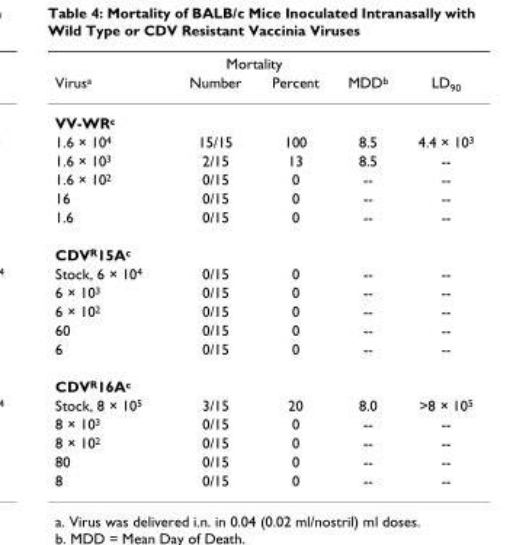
<table><thead><tr><td rowspan="2">Virus<sup>a</sup></td><td colspan="2">Mortality</td><td rowspan="2">MDD<sup>b</sup></td><td rowspan="2">LD<sub>90</sub></td></tr><tr><td>Number</td><td>Percent</td></tr></thead><tbody><tr><td colspan="5">VV-WR<sup>c</sup></td></tr><tr><td>1.6 × 10<sup>4</sup></td><td>15/15</td><td>100</td><td>8.5</td><td>4.4 × 10<sup>3</sup></td></tr><tr><td>1.6 × 10<sup>3</sup></td><td>2/15</td><td>13</td><td>8.5</td><td>--</td></tr><tr><td>1.6 × 10<sup>2</sup></td><td>0/15</td><td>0</td><td>--</td><td>--</td></tr><tr><td>16</td><td>0/15</td><td>0</td><td>--</td><td>--</td></tr><tr><td>1.6</td><td>0/15</td><td>0</td><td>--</td><td>--</td></tr><tr><td colspan="5">CDV<sup>R</sup>15A<sup>c</sup></td></tr><tr><td>Stock, 6 × 10<sup>4</sup></td><td>0/15</td><td>0</td><td>--</td><td>--</td></tr><tr><td>6 × 10<sup>3</sup></td><td>0/15</td><td>0</td><td>--</td><td>--</td></tr><tr><td>6 × 10<sup>2</sup></td><td>0/15</td><td>0</td><td>--</td><td>--</td></tr><tr><td>60</td><td>0/15</td><td>0</td><td>--</td><td>--</td></tr><tr><td>6</td><td>0/15</td><td>0</td><td>--</td><td>--</td></tr><tr><td colspan="5">CDV<sup>R</sup>16A<sup>c</sup></td></tr><tr><td>Stock, 8 × 10<sup>5</sup></td><td>3/15</td><td>20</td><td>8.0</td><td>&gt;8 × 10<sup>5</sup></td></tr><tr><td>8 × 10<sup>3</sup></td><td>0/15</td><td>0</td><td>--</td><td>--</td></tr><tr><td>8 × 10<sup>2</sup></td><td>0/15</td><td>0</td><td>--</td><td>--</td></tr><tr><td>80</td><td>0/15</td><td>0</td><td>--</td><td>--</td></tr><tr><td>8</td><td>0/15</td><td>0</td><td>--</td><td>--</td></tr></tbody></table>